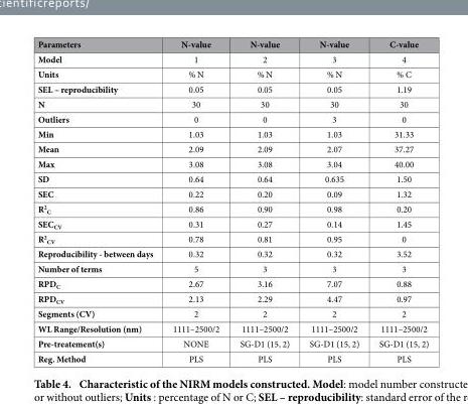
<table><thead><tr><td>Parameters</td><td>N-value</td><td>N-value</td><td>N-value</td><td>C-value</td></tr></thead><tbody><tr><td>Model</td><td>1</td><td>2</td><td>3</td><td>4</td></tr><tr><td>Units</td><td>% N</td><td>% N</td><td>% N</td><td>% C</td></tr><tr><td>SEL – reproducibility</td><td>0.05</td><td>0.05</td><td>0.05</td><td>1.19</td></tr><tr><td rowspan="2">N Outliers</td><td>30</td><td>30</td><td>30</td><td>30</td></tr><tr><td>0</td><td>0</td><td>3</td><td>0</td></tr><tr><td rowspan="3">Min Mean Max</td><td>1.03</td><td>1.03</td><td>1.03</td><td>31.33</td></tr><tr><td>2.09</td><td>2.09</td><td>2.07</td><td>37.27</td></tr><tr><td>3.08</td><td>3.08</td><td>3.04</td><td>40.00</td></tr><tr><td>SD</td><td>0.64</td><td>0.64</td><td>0.635</td><td>1.50</td></tr><tr><td>SEC</td><td>0.22</td><td>0.20</td><td>0.09</td><td>1.32</td></tr><tr><td>R<sup>2</sup> C</td><td>0.86</td><td>0.90</td><td>0.98</td><td>0.20</td></tr><tr><td>SECCV</td><td>0.31</td><td>0.27</td><td>0.14</td><td>1.45</td></tr><tr><td>R<sup>2</sup> <sub>CV</sub></td><td>0.78</td><td>0.81</td><td>0.95</td><td>0</td></tr><tr><td>Reproducibility - between days</td><td>0.32</td><td>0.32</td><td>0.32</td><td>3.52</td></tr><tr><td>Number of terms</td><td>5</td><td>3</td><td>3</td><td>3</td></tr><tr><td>RPD<sub>C</sub></td><td>2.67</td><td>3.16</td><td>7.07</td><td>0.88</td></tr><tr><td>RPD<sub>CV</sub></td><td>2.13</td><td>2.29</td><td>4.47</td><td>0.97</td></tr><tr><td>Segments (CV)</td><td>2</td><td>2</td><td>2</td><td>2</td></tr><tr><td>WL Range/Resolution (nm)</td><td>1111–2500/2</td><td>1111–2500/2</td><td>1111–2500/2</td><td>1111–2500/2</td></tr><tr><td rowspan="2">Pre-treatement(s) Reg. Method</td><td>NONE</td><td>SG-D1 (15, 2)</td><td>SG-D1 (15, 2)</td><td>SG-D1 (15, 2)</td></tr><tr><td>PLS</td><td>PLS</td><td>PLS</td><td>PLS</td></tr></tbody></table>